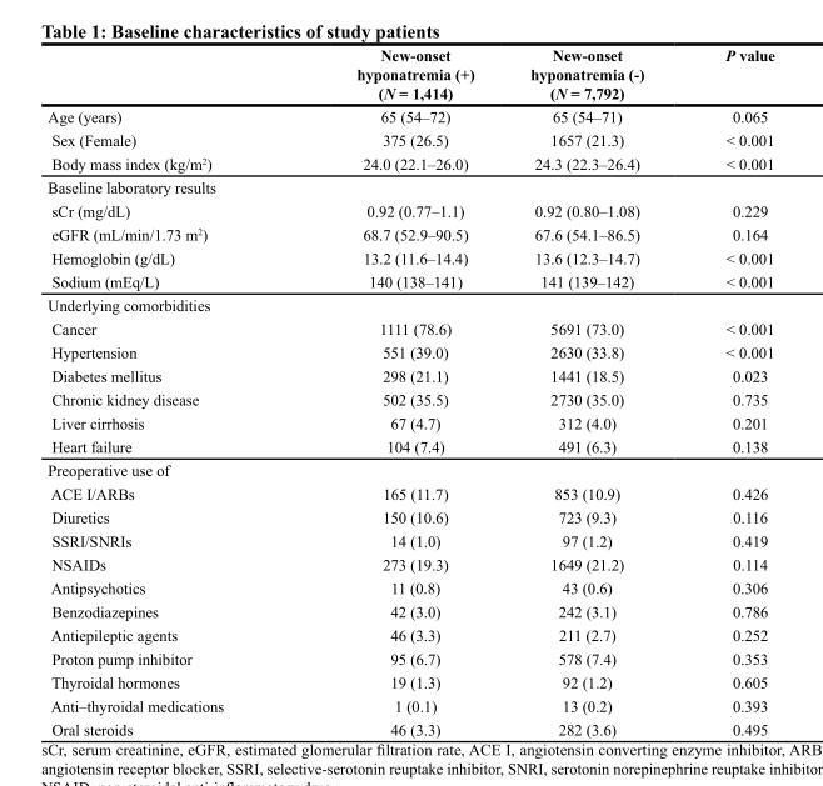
<table><thead><tr><td></td><td>New-onset hyponatremia (+) (N = 1,414)</td><td>New-onset hyponatremia (-) (N = 7,792)</td><td>P value</td></tr></thead><tbody><tr><td>Age (years)</td><td>65 (54–72)</td><td>65 (54–71)</td><td>0.065</td></tr><tr><td>Sex (Female)</td><td>375 (26.5)</td><td>1657 (21.3)</td><td>&lt; 0.001</td></tr><tr><td>Body mass index (kg/m<sup>2</sup>)</td><td>24.0 (22.1–26.0)</td><td>24.3 (22.3–26.4)</td><td>&lt; 0.001</td></tr><tr><td colspan="4">Baseline laboratory results</td></tr><tr><td>sCr (mg/dL)</td><td>0.92 (0.77–1.1)</td><td>0.92 (0.80–1.08)</td><td>0.229</td></tr><tr><td>eGFR (mL/min/1.73 m<sup>2</sup>)</td><td>68.7 (52.9–90.5)</td><td>67.6 (54.1–86.5)</td><td>0.164</td></tr><tr><td>Hemoglobin (g/dL)</td><td>13.2 (11.6–14.4)</td><td>13.6 (12.3–14.7)</td><td>&lt; 0.001</td></tr><tr><td>Sodium (mEq/L)</td><td>140 (138–141)</td><td>141 (139–142)</td><td>&lt; 0.001</td></tr><tr><td colspan="4">Underlying comorbidities</td></tr><tr><td>Cancer</td><td>1111 (78.6)</td><td>5691 (73.0)</td><td>&lt; 0.001</td></tr><tr><td>Hypertension</td><td>551 (39.0)</td><td>2630 (33.8)</td><td>&lt; 0.001</td></tr><tr><td>Diabetes mellitus</td><td>298 (21.1)</td><td>1441 (18.5)</td><td>0.023</td></tr><tr><td>Chronic kidney disease</td><td>502 (35.5)</td><td>2730 (35.0)</td><td>0.735</td></tr><tr><td>Liver cirrhosis</td><td>67 (4.7)</td><td>312 (4.0)</td><td>0.201</td></tr><tr><td>Heart failure</td><td>104 (7.4)</td><td>491 (6.3)</td><td>0.138</td></tr><tr><td colspan="4">Preoperative use of</td></tr><tr><td>ACE I/ARBs</td><td>165 (11.7)</td><td>853 (10.9)</td><td>0.426</td></tr><tr><td>Diuretics</td><td>150 (10.6)</td><td>723 (9.3)</td><td>0.116</td></tr><tr><td>SSRI/SNRIs</td><td>14 (1.0)</td><td>97 (1.2)</td><td>0.419</td></tr><tr><td>NSAIDs</td><td>273 (19.3)</td><td>1649 (21.2)</td><td>0.114</td></tr><tr><td>Antipsychotics</td><td>11 (0.8)</td><td>43 (0.6)</td><td>0.306</td></tr><tr><td>Benzodiazepines</td><td>42 (3.0)</td><td>242 (3.1)</td><td>0.786</td></tr><tr><td>Antiepileptic agents</td><td>46 (3.3)</td><td>211 (2.7)</td><td>0.252</td></tr><tr><td>Proton pump inhibitor</td><td>95 (6.7)</td><td>578 (7.4)</td><td>0.353</td></tr><tr><td>Thyroidal hormones</td><td>19 (1.3)</td><td>92 (1.2)</td><td>0.605</td></tr><tr><td>Anti–thyroidal medications</td><td>1 (0.1)</td><td>13 (0.2)</td><td>0.393</td></tr><tr><td>Oral steroids</td><td>46 (3.3)</td><td>282 (3.6)</td><td>0.495</td></tr></tbody></table>